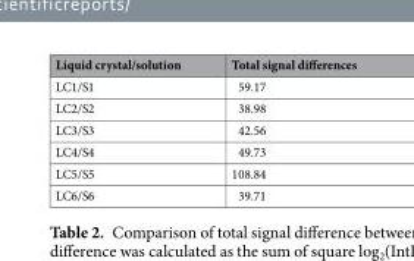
<table><thead><tr><td>Liquid crystal/solution</td><td>Total signal differences</td></tr></thead><tbody><tr><td>LC1/S1</td><td>59.17</td></tr><tr><td>LC2/S2</td><td>38.98</td></tr><tr><td>LC3/S3</td><td>42.56</td></tr><tr><td>LC4/S4</td><td>49.73</td></tr><tr><td>LC5/S5</td><td>108.84</td></tr><tr><td>LC6/S6</td><td>39.71</td></tr></tbody></table>